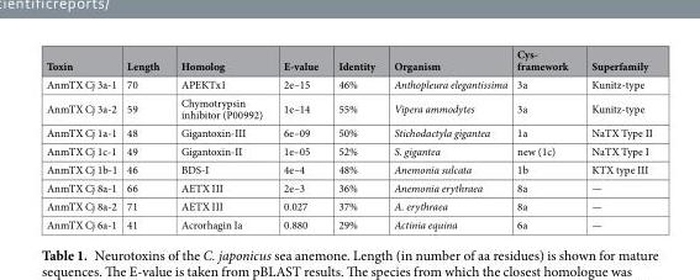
<table><thead><tr><td>Toxin</td><td>Length</td><td>Homolog</td><td>E-value</td><td>Identity</td><td>Organism</td><td>Cys- framework</td><td>Superfamily</td></tr></thead><tbody><tr><td>AnmTX Cj 3a-1</td><td>70</td><td>APEKTx1</td><td>2e–15</td><td>46%</td><td>Anthopleura elegantissima</td><td>3a</td><td>Kunitz-type</td></tr><tr><td>AnmTX Cj 3a-2</td><td>59</td><td>Chymotrypsin inhibitor (P00992)</td><td>1e–14</td><td>55%</td><td>Vipera ammodytes</td><td>3a</td><td>Kunitz-type</td></tr><tr><td>AnmTX Cj 1a-1</td><td>48</td><td>Gigantoxin-III</td><td>6e–09</td><td>50%</td><td>Stichodactyla gigantea</td><td>1a</td><td>NaTX Type II</td></tr><tr><td>AnmTX Cj 1c-1</td><td>49</td><td>Gigantoxin-II</td><td>1e–05</td><td>52%</td><td>S. gigantea</td><td>new (1c)</td><td>NaTX Type I</td></tr><tr><td>AnmTX Cj 1b-1</td><td>46</td><td>BDS-I</td><td>4e–4</td><td>48%</td><td>Anemonia sulcata</td><td>1b</td><td>KTX type III</td></tr><tr><td>AnmTX Cj 8a-1</td><td>66</td><td>AETX III</td><td>2e–3</td><td>36%</td><td>Anemonia erythraea</td><td>8a</td><td>—</td></tr><tr><td>AnmTX Cj 8a-2</td><td>71</td><td>AETX III</td><td>0.027</td><td>37%</td><td>A. erythraea</td><td>8a</td><td>—</td></tr><tr><td>AnmTX Cj 6a-1</td><td>41</td><td>Acrorhagin Ia</td><td>0.880</td><td>29%</td><td>Actinia equina</td><td>6a</td><td>—</td></tr></tbody></table>